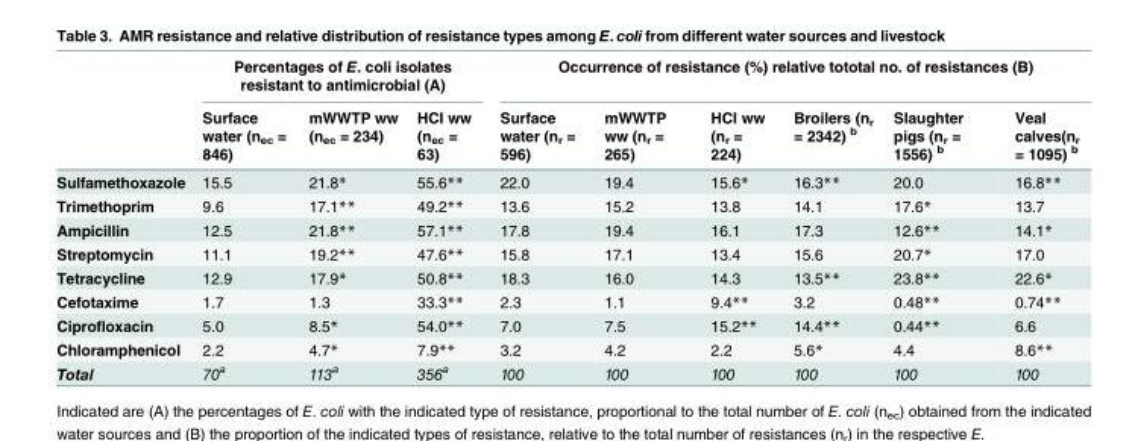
<table><thead><tr><td rowspan="2"></td><td colspan="3">Percentages of E. coli isolates resistant to antimicrobial (A)</td><td colspan="6">Occurrence of resistance (%) relative tototal no. of resistances (B)</td></tr><tr><td>Surface water (n<sub>ec</sub> = 846)</td><td>mWWTP ww (n<sub>ec</sub> = 234)</td><td>HCI ww (n<sub>ec</sub> = 63)</td><td>Surface water (n<sub>r</sub> = 596)</td><td>mWWTP ww (n<sub>r</sub> = 265)</td><td>HCI ww (n<sub>r</sub> = 224)</td><td>Broilers (n<sub>r</sub> = 2342) <sup>b</sup></td><td>Slaughter pigs (n<sub>r</sub> = 1556) <sup>b</sup></td><td>Veal calves(n<sub>r</sub> = 1095) <sup>b</sup></td></tr></thead><tbody><tr><td>Sulfamethoxazole</td><td>15.5</td><td>21.8*</td><td>55.6**</td><td>22.0</td><td>19.4</td><td>15.6*</td><td>16.3**</td><td>20.0</td><td>16.8**</td></tr><tr><td>Trimethoprim</td><td>9.6</td><td>17.1**</td><td>49.2**</td><td>13.6</td><td>15.2</td><td>13.8</td><td>14.1</td><td>17.6*</td><td>13.7</td></tr><tr><td>Ampicillin</td><td>12.5</td><td>21.8**</td><td>57.1**</td><td>17.8</td><td>19.4</td><td>16.1</td><td>17.3</td><td>12.6**</td><td>14.1*</td></tr><tr><td>Streptomycin</td><td>11.1</td><td>19.2**</td><td>47.6**</td><td>15.8</td><td>17.1</td><td>13.4</td><td>15.6</td><td>20.7*</td><td>17.0</td></tr><tr><td>Tetracycline</td><td>12.9</td><td>17.9*</td><td>50.8**</td><td>18.3</td><td>16.0</td><td>14.3</td><td>13.5**</td><td>23.8**</td><td>22.6*</td></tr><tr><td>Cefotaxime</td><td>1.7</td><td>1.3</td><td>33.3**</td><td>2.3</td><td>1.1</td><td>9.4**</td><td>3.2</td><td>0.48**</td><td>0.74**</td></tr><tr><td>Ciprofloxacin</td><td>5.0</td><td>8.5*</td><td>54.0**</td><td>7.0</td><td>7.5</td><td>15.2**</td><td>14.4**</td><td>0.44**</td><td>6.6</td></tr><tr><td>Chloramphenicol</td><td>2.2</td><td>4.7*</td><td>7.9**</td><td>3.2</td><td>4.2</td><td>2.2</td><td>5.6*</td><td>4.4</td><td>8.6**</td></tr><tr><td>Total</td><td>70<sup>a</sup></td><td>113<sup>a</sup></td><td>356<sup>a</sup></td><td>100</td><td>100</td><td>100</td><td>100</td><td>100</td><td>100</td></tr></tbody></table>